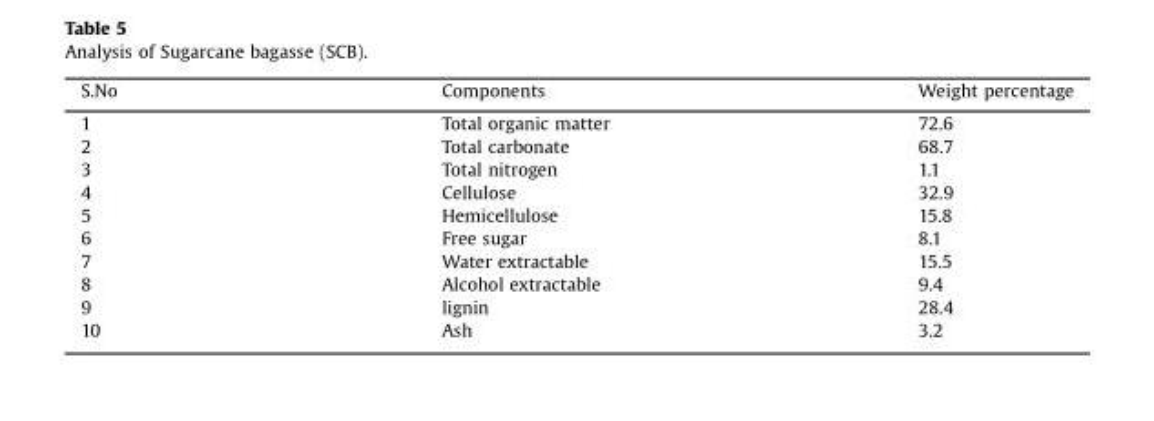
<table><thead><tr><td>S.No</td><td>Components</td><td>Weight percentage</td></tr></thead><tbody><tr><td>1</td><td>Total organic matter</td><td>72.6</td></tr><tr><td>2</td><td>Total carbonate</td><td>68.7</td></tr><tr><td>3</td><td>Total nitrogen</td><td>1.1</td></tr><tr><td>4</td><td>Cellulose</td><td>32.9</td></tr><tr><td>5</td><td>Hemicellulose</td><td>15.8</td></tr><tr><td>6</td><td>Free sugar</td><td>8.1</td></tr><tr><td>7</td><td>Water extractable</td><td>15.5</td></tr><tr><td>8</td><td>Alcohol extractable</td><td>9.4</td></tr><tr><td>9</td><td>lignin</td><td>28.4</td></tr><tr><td>10</td><td>Ash</td><td>3.2</td></tr></tbody></table>